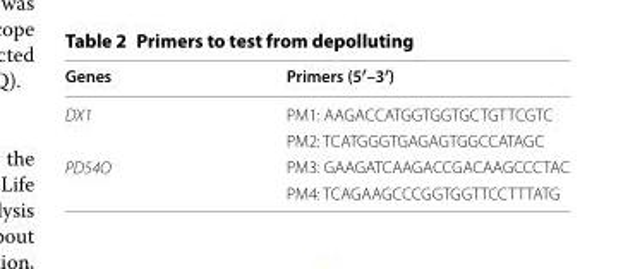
<table><thead><tr><td>Genes</td><td>Primers (5′–3′)</td></tr></thead><tbody><tr><td rowspan="2">DX1</td><td>PM1: AAGACCATGGTGGTGCTGTTCGTC</td></tr><tr><td>PM2: TCATGGGTGAGAGTGGCCATAGC</td></tr><tr><td rowspan="2">PD54O</td><td>PM3: GAAGATCAAGACCGACAAGCCCTAC</td></tr><tr><td>PM4: TCAGAAGCCCGGTGGTTCCTTTATG</td></tr></tbody></table>